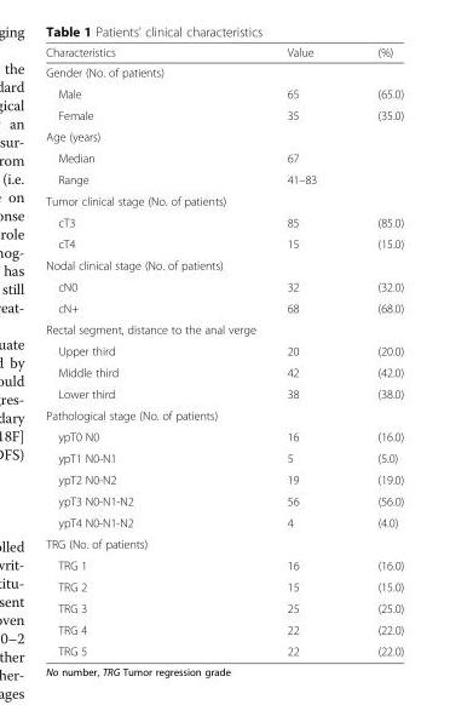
<table><thead><tr><td>Characteristics</td><td>Value</td><td>(%)</td></tr></thead><tbody><tr><td colspan="3">Gender (No. of patients)</td></tr><tr><td>Male</td><td>65</td><td>(65.0)</td></tr><tr><td>Female</td><td>35</td><td>(35.0)</td></tr><tr><td colspan="3">Age (years)</td></tr><tr><td>Median</td><td>67</td><td></td></tr><tr><td>Range</td><td>41–83</td><td></td></tr><tr><td colspan="3">Tumor clinical stage (No. of patients)</td></tr><tr><td>cT3</td><td>85</td><td>(85.0)</td></tr><tr><td>cT4</td><td>15</td><td>(15.0)</td></tr><tr><td colspan="3">Nodal clinical stage (No. of patients)</td></tr><tr><td>cN0</td><td>32</td><td>(32.0)</td></tr><tr><td>cN+</td><td>68</td><td>(68.0)</td></tr><tr><td colspan="3">Rectal segment, distance to the anal verge</td></tr><tr><td>Upper third</td><td>20</td><td>(20.0)</td></tr><tr><td>Middle third</td><td>42</td><td>(42.0)</td></tr><tr><td>Lower third</td><td>38</td><td>(38.0)</td></tr><tr><td colspan="3">Pathological stage (No. of patients)</td></tr><tr><td>ypT0 N0</td><td>16</td><td>(16.0)</td></tr><tr><td>ypT1 N0-N1</td><td>5</td><td>(5.0)</td></tr><tr><td>ypT2 N0-N2</td><td>19</td><td>(19.0)</td></tr><tr><td>ypT3 N0-N1-N2</td><td>56</td><td>(56.0)</td></tr><tr><td>ypT4 N0-N1-N2</td><td>4</td><td>(4.0)</td></tr><tr><td colspan="3">TRG (No. of patients)</td></tr><tr><td>TRG 1</td><td>16</td><td>(16.0)</td></tr><tr><td>TRG 2</td><td>15</td><td>(15.0)</td></tr><tr><td>TRG 3</td><td>25</td><td>(25.0)</td></tr><tr><td>TRG 4</td><td>22</td><td>(22.0)</td></tr><tr><td>TRG 5</td><td>22</td><td>(22.0)</td></tr></tbody></table>